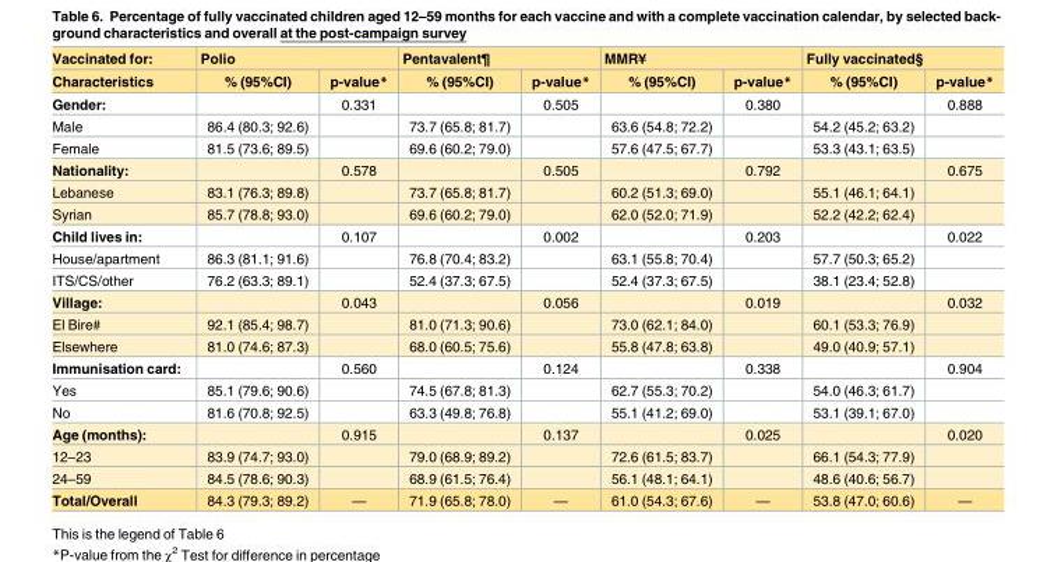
<table><thead><tr><td rowspan="2">Vaccinated for: Characteristics</td><td colspan="2">Polio</td><td colspan="2">Pentavalent¶</td><td colspan="2">MMR¥</td><td colspan="2">Fully vaccinated§</td></tr><tr><td>% (95%CI)</td><td>p-value*</td><td>% (95%CI)</td><td>p-value*</td><td>% (95%CI)</td><td>p-value*</td><td>% (95%CI)</td><td>p-value*</td></tr></thead><tbody><tr><td>Gender:</td><td></td><td>0.331</td><td></td><td>0.505</td><td></td><td>0.380</td><td></td><td>0.888</td></tr><tr><td>Male</td><td>86.4 (80.3; 92.6)</td><td></td><td>73.7 (65.8; 81.7)</td><td></td><td>63.6 (54.8; 72.2)</td><td></td><td>54.2 (45.2; 63.2)</td><td></td></tr><tr><td>Female</td><td>81.5 (73.6; 89.5)</td><td></td><td>69.6 (60.2; 79.0)</td><td></td><td>57.6 (47.5; 67.7)</td><td></td><td>53.3 (43.1; 63.5)</td><td></td></tr><tr><td>Nationality:</td><td></td><td>0.578</td><td></td><td>0.505</td><td></td><td>0.792</td><td></td><td>0.675</td></tr><tr><td>Lebanese</td><td>83.1 (76.3; 89.8)</td><td></td><td>73.7 (65.8; 81.7)</td><td></td><td>60.2 (51.3; 69.0)</td><td></td><td>55.1 (46.1; 64.1)</td><td></td></tr><tr><td>Syrian</td><td>85.7 (78.8; 93.0)</td><td></td><td>69.6 (60.2; 79.0)</td><td></td><td>62.0 (52.0; 71.9)</td><td></td><td>52.2 (42.2; 62.4)</td><td></td></tr><tr><td>Child lives in:</td><td></td><td>0.107</td><td></td><td>0.002</td><td></td><td>0.203</td><td></td><td>0.022</td></tr><tr><td>House/apartment</td><td>86.3 (81.1; 91.6)</td><td></td><td>76.8 (70.4; 83.2)</td><td></td><td>63.1 (55.8; 70.4)</td><td></td><td>57.7 (50.3; 65.2)</td><td></td></tr><tr><td>ITS/CS/other</td><td>76.2 (63.3; 89.1)</td><td></td><td>52.4 (37.3; 67.5)</td><td></td><td>52.4 (37.3; 67.5)</td><td></td><td>38.1 (23.4; 52.8)</td><td></td></tr><tr><td>Village:</td><td></td><td>0.043</td><td></td><td>0.056</td><td></td><td>0.019</td><td></td><td>0.032</td></tr><tr><td>El Bire#</td><td>92.1 (85.4; 98.7)</td><td></td><td>81.0 (71.3; 90.6)</td><td></td><td>73.0 (62.1; 84.0)</td><td></td><td>60.1 (53.3; 76.9)</td><td></td></tr><tr><td>Elsewhere</td><td>81.0 (74.6; 87.3)</td><td></td><td>68.0 (60.5; 75.6)</td><td></td><td>55.8 (47.8; 63.8)</td><td></td><td>49.0 (40.9; 57.1)</td><td></td></tr><tr><td>Immunisation card:</td><td></td><td>0.560</td><td></td><td>0.124</td><td></td><td>0.338</td><td></td><td>0.904</td></tr><tr><td>Yes</td><td>85.1 (79.6; 90.6)</td><td></td><td>74.5 (67.8; 81.3)</td><td></td><td>62.7 (55.3; 70.2)</td><td></td><td>54.0 (46.3; 61.7)</td><td></td></tr><tr><td>No</td><td>81.6 (70.8; 92.5)</td><td></td><td>63.3 (49.8; 76.8)</td><td></td><td>55.1 (41.2; 69.0)</td><td></td><td>53.1 (39.1; 67.0)</td><td></td></tr><tr><td>Age (months):</td><td></td><td>0.915</td><td></td><td>0.137</td><td></td><td>0.025</td><td></td><td>0.020</td></tr><tr><td>12–23</td><td>83.9 (74.7; 93.0)</td><td></td><td>79.0 (68.9; 89.2)</td><td></td><td>72.6 (61.5; 83.7)</td><td></td><td>66.1 (54.3; 77.9)</td><td></td></tr><tr><td>24–59</td><td>84.5 (78.6; 90.3)</td><td></td><td>68.9 (61.5; 76.4)</td><td></td><td>56.1 (48.1; 64.1)</td><td></td><td>48.6 (40.6; 56.7)</td><td></td></tr><tr><td>Total/Overall</td><td>84.3 (79.3; 89.2)</td><td>—</td><td>71.9 (65.8; 78.0)</td><td>—</td><td>61.0 (54.3; 67.6)</td><td>—</td><td>53.8 (47.0; 60.6)</td><td>—</td></tr></tbody></table>